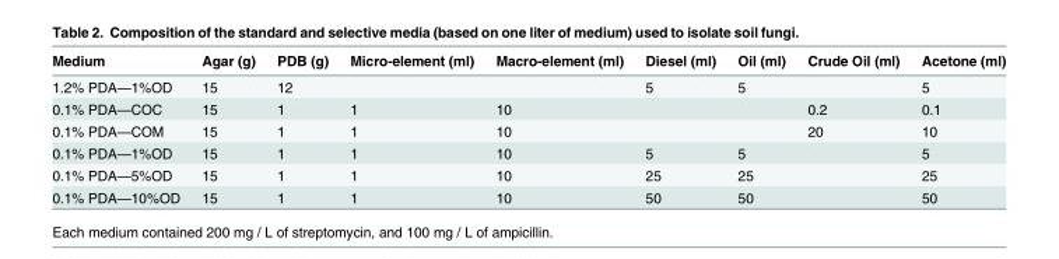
<table><thead><tr><td>Medium</td><td>Agar (g)</td><td>PDB (g)</td><td>Micro-element (ml)</td><td>Macro-element (ml)</td><td>Diesel (ml)</td><td>Oil (ml)</td><td>Crude Oil (ml)</td><td>Acetone (ml)</td></tr></thead><tbody><tr><td>1.2% PDA—1%OD</td><td>15</td><td>12</td><td></td><td></td><td>5</td><td>5</td><td></td><td>5</td></tr><tr><td>0.1% PDA—COC</td><td>15</td><td>1</td><td>1</td><td>10</td><td></td><td></td><td>0.2</td><td>0.1</td></tr><tr><td>0.1% PDA—COM</td><td>15</td><td>1</td><td>1</td><td>10</td><td></td><td></td><td>20</td><td>10</td></tr><tr><td>0.1% PDA—1%OD</td><td>15</td><td>1</td><td>1</td><td>10</td><td>5</td><td>5</td><td></td><td>5</td></tr><tr><td>0.1% PDA—5%OD</td><td>15</td><td>1</td><td>1</td><td>10</td><td>25</td><td>25</td><td></td><td>25</td></tr><tr><td>0.1% PDA—10%OD</td><td>15</td><td>1</td><td>1</td><td>10</td><td>50</td><td>50</td><td></td><td>50</td></tr></tbody></table>